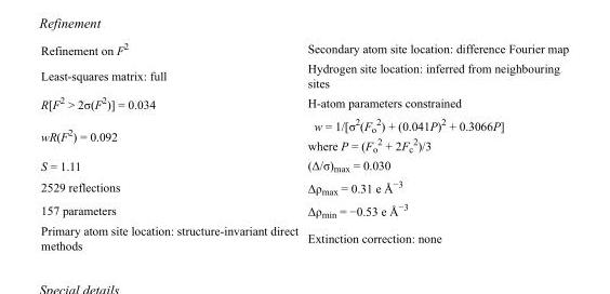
<table><tbody><tr><td>Refinement on F<sup>2</sup></td><td>Secondary atom site location: difference Fourier map</td></tr><tr><td>Least-squares matrix: full</td><td>Hydrogen site location: inferred from neighbouring sites</td></tr><tr><td>R[F<sup>2</sup> &gt; 2σ(F<sup>2</sup>)] = 0.034</td><td>H-atom parameters constrained</td></tr><tr><td>wR(F<sup>2</sup>) = 0.092</td><td>w = 1/[σ<sup>2</sup>(F<sub>o</sub> <sup>2</sup>) + (0.041P)<sup>2</sup> + 0.3066P] where P = (F<sub>o</sub> <sup>2</sup> + 2F<sub>c</sub> <sup>2</sup>)/3</td></tr><tr><td>S = 1.11</td><td>(Δ/σ)<sub>max</sub> = 0.030</td></tr><tr><td>2529 reflections</td><td>Δρ<sub>max</sub> = 0.31 e Å<sup>−3</sup></td></tr><tr><td>157 parameters</td><td>Δρ<sub>min</sub> = −0.53 e Å<sup>−3</sup></td></tr><tr><td>Primary atom site location: structure-invariant direct methods</td><td>Extinction correction: none</td></tr></tbody></table>